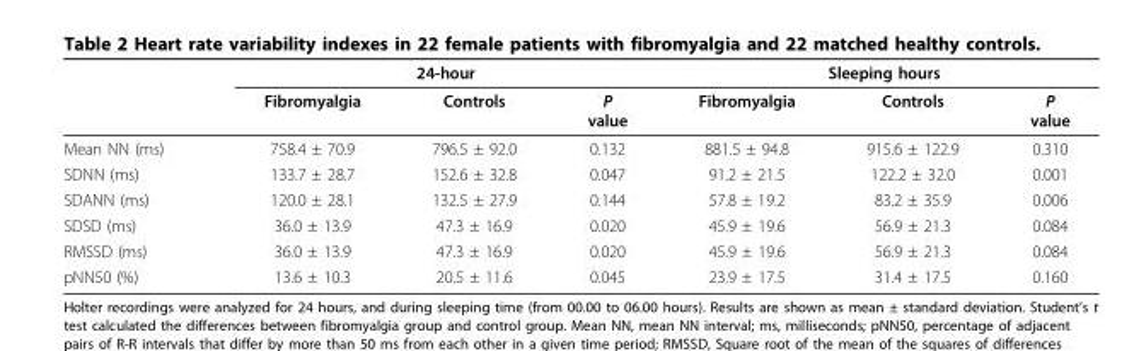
<table><thead><tr><td rowspan="2"></td><td colspan="3">24-hour</td><td colspan="3">Sleeping hours</td></tr><tr><td>Fibromyalgia</td><td>Controls</td><td>P value</td><td>Fibromyalgia</td><td>Controls</td><td>P value</td></tr></thead><tbody><tr><td>Mean NN (ms)</td><td>758.4 ± 70.9</td><td>796.5 ± 92.0</td><td>0.132</td><td>881.5 ± 94.8</td><td>915.6 ± 122.9</td><td>0.310</td></tr><tr><td>SDNN (ms)</td><td>133.7 ± 28.7</td><td>152.6 ± 32.8</td><td>0.047</td><td>91.2 ± 21.5</td><td>122.2 ± 32.0</td><td>0.001</td></tr><tr><td>SDANN (ms)</td><td>120.0 ± 28.1</td><td>132.5 ± 27.9</td><td>0.144</td><td>57.8 ± 19.2</td><td>83.2 ± 35.9</td><td>0.006</td></tr><tr><td>SDSD (ms)</td><td>36.0 ± 13.9</td><td>47.3 ± 16.9</td><td>0.020</td><td>45.9 ± 19.6</td><td>56.9 ± 21.3</td><td>0.084</td></tr><tr><td>RMSSD (ms)</td><td>36.0 ± 13.9</td><td>47.3 ± 16.9</td><td>0.020</td><td>45.9 ± 19.6</td><td>56.9 ± 21.3</td><td>0.084</td></tr><tr><td>pNN50 (%)</td><td>13.6 ± 10.3</td><td>20.5 ± 11.6</td><td>0.045</td><td>23.9 ± 17.5</td><td>31.4 ± 17.5</td><td>0.160</td></tr></tbody></table>